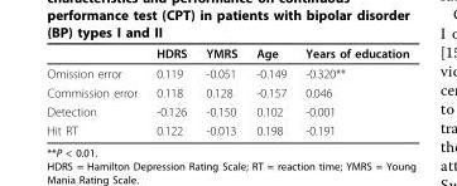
<table><thead><tr><td></td><td>HDRS</td><td>YMRS</td><td>Age</td><td>Years of education</td></tr></thead><tbody><tr><td>Omission error</td><td>0.119</td><td>-0.051</td><td>-0.149</td><td>-0.320**</td></tr><tr><td>Commission error</td><td>0.118</td><td>0.128</td><td>-0.157</td><td>0.046</td></tr><tr><td>Detection</td><td>-0.126</td><td>-0.150</td><td>0.102</td><td>-0.001</td></tr><tr><td>Hit RT</td><td>0.122</td><td>-0.013</td><td>0.198</td><td>-0.191</td></tr></tbody></table>